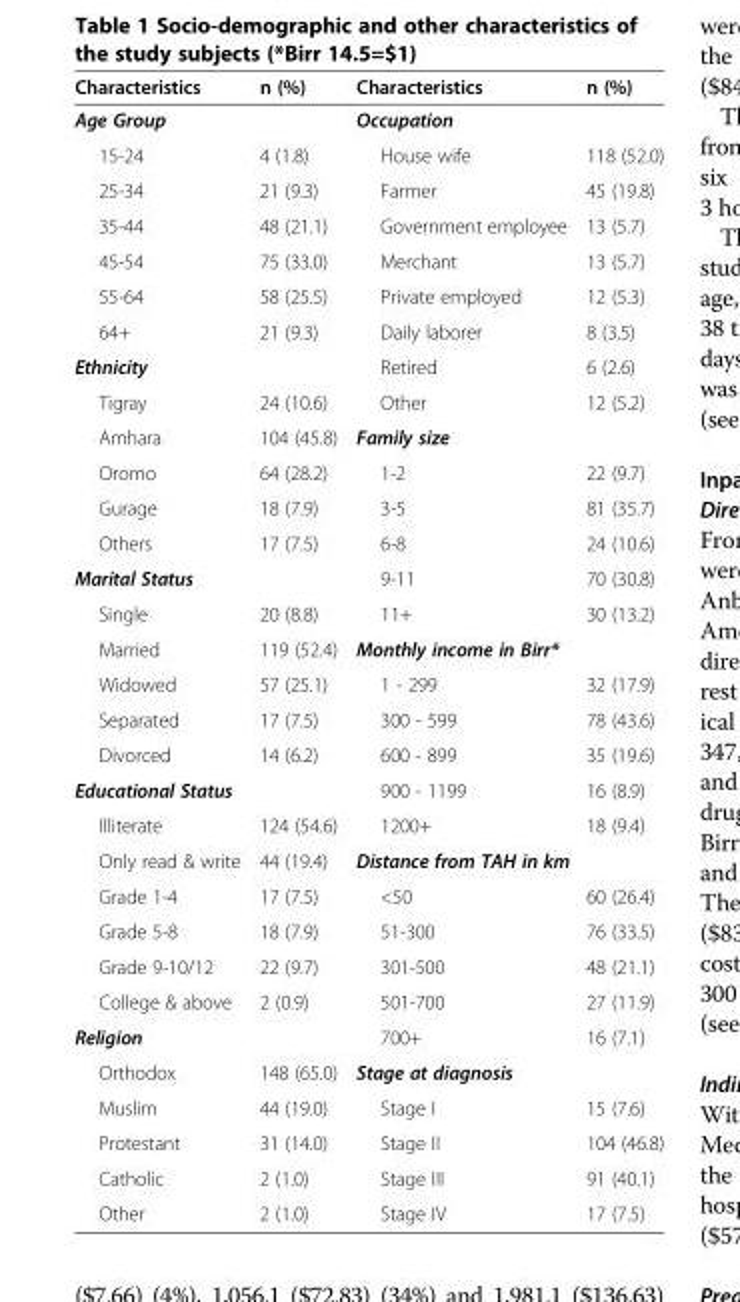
<table><thead><tr><td>Characteristics</td><td>n (%)</td><td>Characteristics</td><td>n (%)</td></tr></thead><tbody><tr><td>Age Group</td><td></td><td>Occupation</td><td></td></tr><tr><td>15-24</td><td>4 (1.8)</td><td>House wife</td><td>118 (52.0)</td></tr><tr><td>25-34</td><td>21 (9.3)</td><td>Farmer</td><td>45 (19.8)</td></tr><tr><td>35-44</td><td>48 (21.1)</td><td>Government employee</td><td>13 (5.7)</td></tr><tr><td>45-54</td><td>75 (33.0)</td><td>Merchant</td><td>13 (5.7)</td></tr><tr><td>55-64</td><td>58 (25.5)</td><td>Private employed</td><td>12 (5.3)</td></tr><tr><td>64+</td><td>21 (9.3)</td><td>Daily laborer</td><td>8 (3.5)</td></tr><tr><td colspan="2">Ethnicity</td><td>Retired</td><td>6 (2.6)</td></tr><tr><td>Tigray</td><td>24 (10.6)</td><td>Other</td><td>12 (5.2)</td></tr><tr><td>Amhara</td><td>104 (45.8)</td><td colspan="2">Family size</td></tr><tr><td>Oromo</td><td>64 (28.2)</td><td>1-2</td><td>22 (9.7)</td></tr><tr><td>Gurage</td><td>18 (7.9)</td><td>3-5</td><td>81 (35.7)</td></tr><tr><td>Others</td><td>17 (7.5)</td><td>6-8</td><td>24 (10.6)</td></tr><tr><td colspan="2">Marital Status</td><td>9-11</td><td>70 (30.8)</td></tr><tr><td>Single</td><td>20 (8.8)</td><td>11+</td><td>30 (13.2)</td></tr><tr><td>Married</td><td>119 (52.4)</td><td colspan="2">Monthly income in Birr*</td></tr><tr><td>Widowed</td><td>57 (25.1)</td><td>1 - 299</td><td>32 (17.9)</td></tr><tr><td>Separated</td><td>17 (7.5)</td><td>300 - 599</td><td>78 (43.6)</td></tr><tr><td>Divorced</td><td>14 (6.2)</td><td>600 - 899</td><td>35 (19.6)</td></tr><tr><td colspan="2">Educational Status</td><td>900 - 1199</td><td>16 (8.9)</td></tr><tr><td>Illiterate</td><td>124 (54.6)</td><td>1200+</td><td>18 (9.4)</td></tr><tr><td>Only read &amp; write</td><td>44 (19.4)</td><td colspan="2">Distance from TAH in km</td></tr><tr><td>Grade 1-4</td><td>17 (7.5)</td><td>&lt;50</td><td>60 (26.4)</td></tr><tr><td>Grade 5-8</td><td>18 (7.9)</td><td>51-300</td><td>76 (33.5)</td></tr><tr><td>Grade 9-10/12</td><td>22 (9.7)</td><td>301-500</td><td>48 (21.1)</td></tr><tr><td>College &amp; above</td><td>2 (0.9)</td><td>501-700</td><td>27 (11.9)</td></tr><tr><td colspan="2">Religion</td><td>700+</td><td>16 (7.1)</td></tr><tr><td>Orthodox</td><td>148 (65.0)</td><td colspan="2">Stage at diagnosis</td></tr><tr><td>Muslim</td><td>44 (19.0)</td><td>Stage I</td><td>15 (7.6)</td></tr><tr><td>Protestant</td><td>31 (14.0)</td><td>Stage II</td><td>104 (46.8)</td></tr><tr><td>Catholic</td><td>2 (1.0)</td><td>Stage III</td><td>91 (40.1)</td></tr><tr><td>Other</td><td>2 (1.0)</td><td>Stage IV</td><td>17 (7.5)</td></tr></tbody></table>